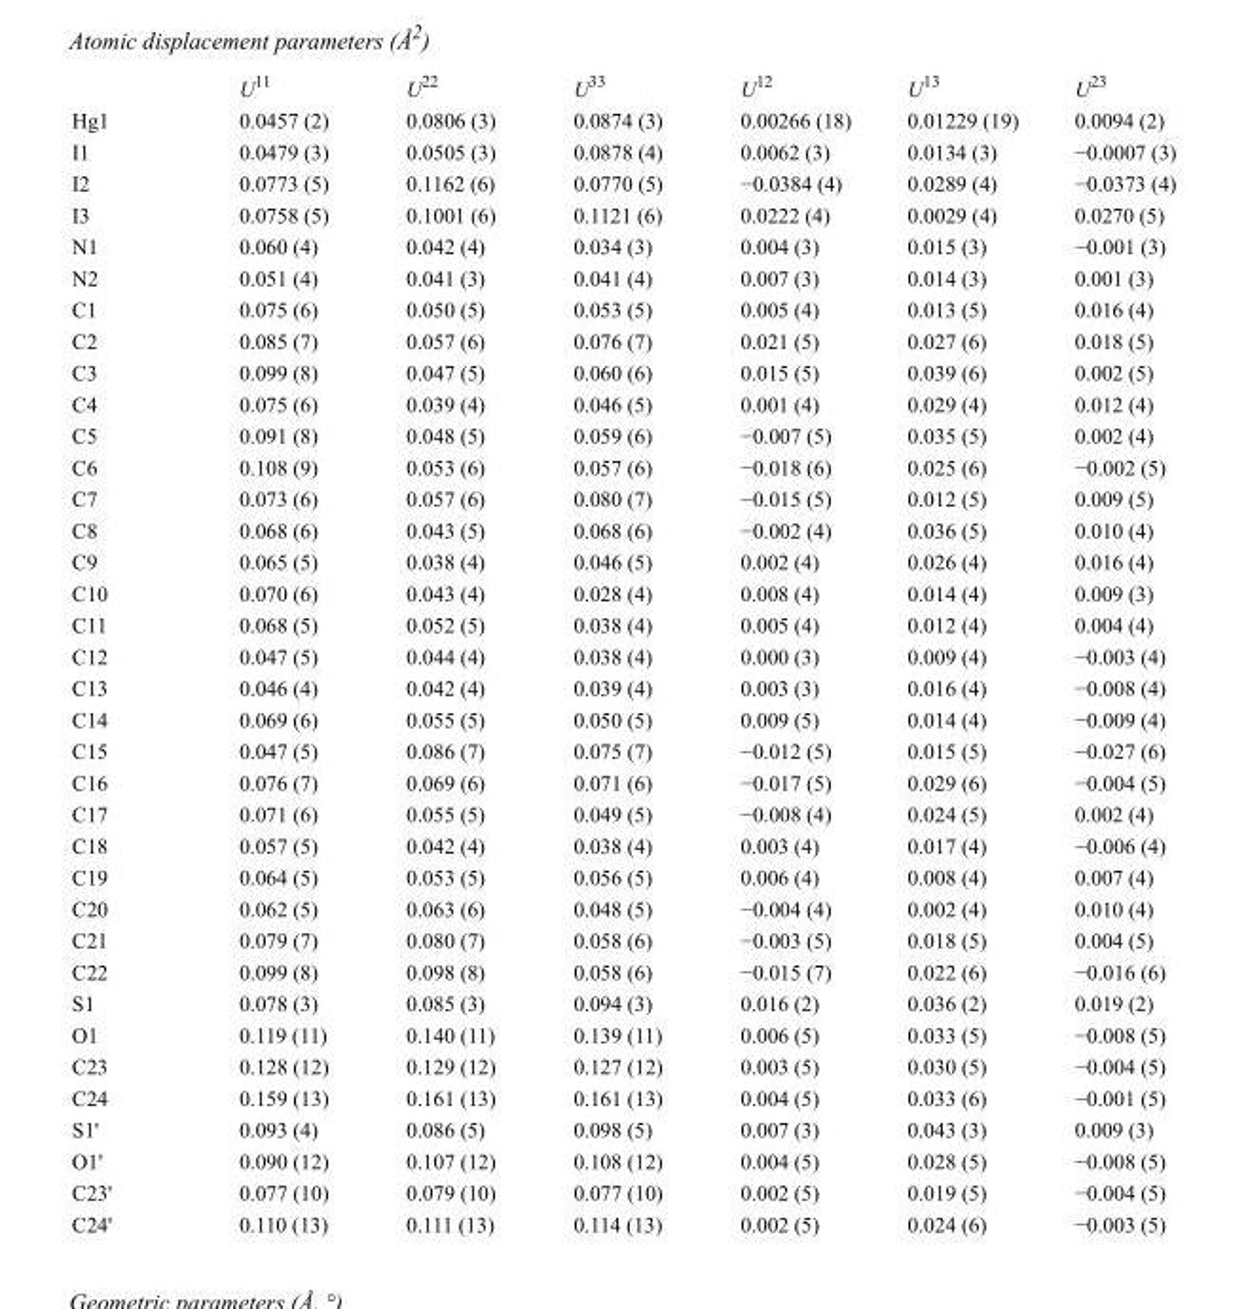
<table><thead><tr><td></td><td>U<sup>11</sup></td><td>U<sup>22</sup></td><td>U<sup>33</sup></td><td>U<sup>12</sup></td><td>U<sup>13</sup></td><td>U<sup>23</sup></td></tr></thead><tbody><tr><td>Hg1</td><td>0.0457 (2)</td><td>0.0806 (3)</td><td>0.0874 (3)</td><td>0.00266 (18)</td><td>0.01229 (19)</td><td>0.0094 (2)</td></tr><tr><td>I1</td><td>0.0479 (3)</td><td>0.0505 (3)</td><td>0.0878 (4)</td><td>0.0062 (3)</td><td>0.0134 (3)</td><td>−0.0007 (3)</td></tr><tr><td>I2</td><td>0.0773 (5)</td><td>0.1162 (6)</td><td>0.0770 (5)</td><td>−0.0384 (4)</td><td>0.0289 (4)</td><td>−0.0373 (4)</td></tr><tr><td>I3</td><td>0.0758 (5)</td><td>0.1001 (6)</td><td>0.1121 (6)</td><td>0.0222 (4)</td><td>0.0029 (4)</td><td>0.0270 (5)</td></tr><tr><td>N1</td><td>0.060 (4)</td><td>0.042 (4)</td><td>0.034 (3)</td><td>0.004 (3)</td><td>0.015 (3)</td><td>−0.001 (3)</td></tr><tr><td>N2</td><td>0.051 (4)</td><td>0.041 (3)</td><td>0.041 (4)</td><td>0.007 (3)</td><td>0.014 (3)</td><td>0.001 (3)</td></tr><tr><td>C1</td><td>0.075 (6)</td><td>0.050 (5)</td><td>0.053 (5)</td><td>0.005 (4)</td><td>0.013 (5)</td><td>0.016 (4)</td></tr><tr><td>C2</td><td>0.085 (7)</td><td>0.057 (6)</td><td>0.076 (7)</td><td>0.021 (5)</td><td>0.027 (6)</td><td>0.018 (5)</td></tr><tr><td>C3</td><td>0.099 (8)</td><td>0.047 (5)</td><td>0.060 (6)</td><td>0.015 (5)</td><td>0.039 (6)</td><td>0.002 (5)</td></tr><tr><td>C4</td><td>0.075 (6)</td><td>0.039 (4)</td><td>0.046 (5)</td><td>0.001 (4)</td><td>0.029 (4)</td><td>0.012 (4)</td></tr><tr><td>C5</td><td>0.091 (8)</td><td>0.048 (5)</td><td>0.059 (6)</td><td>−0.007 (5)</td><td>0.035 (5)</td><td>0.002 (4)</td></tr><tr><td>C6</td><td>0.108 (9)</td><td>0.053 (6)</td><td>0.057 (6)</td><td>−0.018 (6)</td><td>0.025 (6)</td><td>−0.002 (5)</td></tr><tr><td>C7</td><td>0.073 (6)</td><td>0.057 (6)</td><td>0.080 (7)</td><td>−0.015 (5)</td><td>0.012 (5)</td><td>0.009 (5)</td></tr><tr><td>C8</td><td>0.068 (6)</td><td>0.043 (5)</td><td>0.068 (6)</td><td>−0.002 (4)</td><td>0.036 (5)</td><td>0.010 (4)</td></tr><tr><td>C9</td><td>0.065 (5)</td><td>0.038 (4)</td><td>0.046 (5)</td><td>0.002 (4)</td><td>0.026 (4)</td><td>0.016 (4)</td></tr><tr><td>C10</td><td>0.070 (6)</td><td>0.043 (4)</td><td>0.028 (4)</td><td>0.008 (4)</td><td>0.014 (4)</td><td>0.009 (3)</td></tr><tr><td>C11</td><td>0.068 (5)</td><td>0.052 (5)</td><td>0.038 (4)</td><td>0.005 (4)</td><td>0.012 (4)</td><td>0.004 (4)</td></tr><tr><td>C12</td><td>0.047 (5)</td><td>0.044 (4)</td><td>0.038 (4)</td><td>0.000 (3)</td><td>0.009 (4)</td><td>−0.003 (4)</td></tr><tr><td>C13</td><td>0.046 (4)</td><td>0.042 (4)</td><td>0.039 (4)</td><td>0.003 (3)</td><td>0.016 (4)</td><td>−0.008 (4)</td></tr><tr><td>C14</td><td>0.069 (6)</td><td>0.055 (5)</td><td>0.050 (5)</td><td>0.009 (5)</td><td>0.014 (4)</td><td>−0.009 (4)</td></tr><tr><td>C15</td><td>0.047 (5)</td><td>0.086 (7)</td><td>0.075 (7)</td><td>−0.012 (5)</td><td>0.015 (5)</td><td>−0.027 (6)</td></tr><tr><td>C16</td><td>0.076 (7)</td><td>0.069 (6)</td><td>0.071 (6)</td><td>−0.017 (5)</td><td>0.029 (6)</td><td>−0.004 (5)</td></tr><tr><td>C17</td><td>0.071 (6)</td><td>0.055 (5)</td><td>0.049 (5)</td><td>−0.008 (4)</td><td>0.024 (5)</td><td>0.002 (4)</td></tr><tr><td>C18</td><td>0.057 (5)</td><td>0.042 (4)</td><td>0.038 (4)</td><td>0.003 (4)</td><td>0.017 (4)</td><td>−0.006 (4)</td></tr><tr><td>C19</td><td>0.064 (5)</td><td>0.053 (5)</td><td>0.056 (5)</td><td>0.006 (4)</td><td>0.008 (4)</td><td>0.007 (4)</td></tr><tr><td>C20</td><td>0.062 (5)</td><td>0.063 (6)</td><td>0.048 (5)</td><td>−0.004 (4)</td><td>0.002 (4)</td><td>0.010 (4)</td></tr><tr><td>C21</td><td>0.079 (7)</td><td>0.080 (7)</td><td>0.058 (6)</td><td>−0.003 (5)</td><td>0.018 (5)</td><td>0.004 (5)</td></tr><tr><td>C22</td><td>0.099 (8)</td><td>0.098 (8)</td><td>0.058 (6)</td><td>−0.015 (7)</td><td>0.022 (6)</td><td>−0.016 (6)</td></tr><tr><td>S1</td><td>0.078 (3)</td><td>0.085 (3)</td><td>0.094 (3)</td><td>0.016 (2)</td><td>0.036 (2)</td><td>0.019 (2)</td></tr><tr><td>O1</td><td>0.119 (11)</td><td>0.140 (11)</td><td>0.139 (11)</td><td>0.006 (5)</td><td>0.033 (5)</td><td>−0.008 (5)</td></tr><tr><td>C23</td><td>0.128 (12)</td><td>0.129 (12)</td><td>0.127 (12)</td><td>0.003 (5)</td><td>0.030 (5)</td><td>−0.004 (5)</td></tr><tr><td>C24</td><td>0.159 (13)</td><td>0.161 (13)</td><td>0.161 (13)</td><td>0.004 (5)</td><td>0.033 (6)</td><td>−0.001 (5)</td></tr><tr><td>S1&#x27;</td><td>0.093 (4)</td><td>0.086 (5)</td><td>0.098 (5)</td><td>0.007 (3)</td><td>0.043 (3)</td><td>0.009 (3)</td></tr><tr><td>O1&#x27;</td><td>0.090 (12)</td><td>0.107 (12)</td><td>0.108 (12)</td><td>0.004 (5)</td><td>0.028 (5)</td><td>−0.008 (5)</td></tr><tr><td>C23&#x27;</td><td>0.077 (10)</td><td>0.079 (10)</td><td>0.077 (10)</td><td>0.002 (5)</td><td>0.019 (5)</td><td>−0.004 (5)</td></tr><tr><td>C24&#x27;</td><td>0.110 (13)</td><td>0.111 (13)</td><td>0.114 (13)</td><td>0.002 (5)</td><td>0.024 (6)</td><td>−0.003 (5)</td></tr></tbody></table>